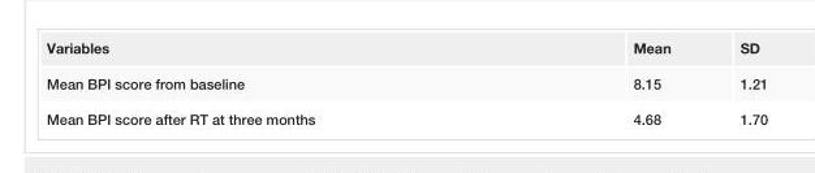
<table><tbody><tr><td>Variables</td><td>Mean</td><td>SD</td></tr><tr><td>Mean BPI score from baseline</td><td>8.15</td><td>1.21</td></tr><tr><td>Mean BPI score after RT at three months</td><td>4.68</td><td>1.70</td></tr></tbody></table>